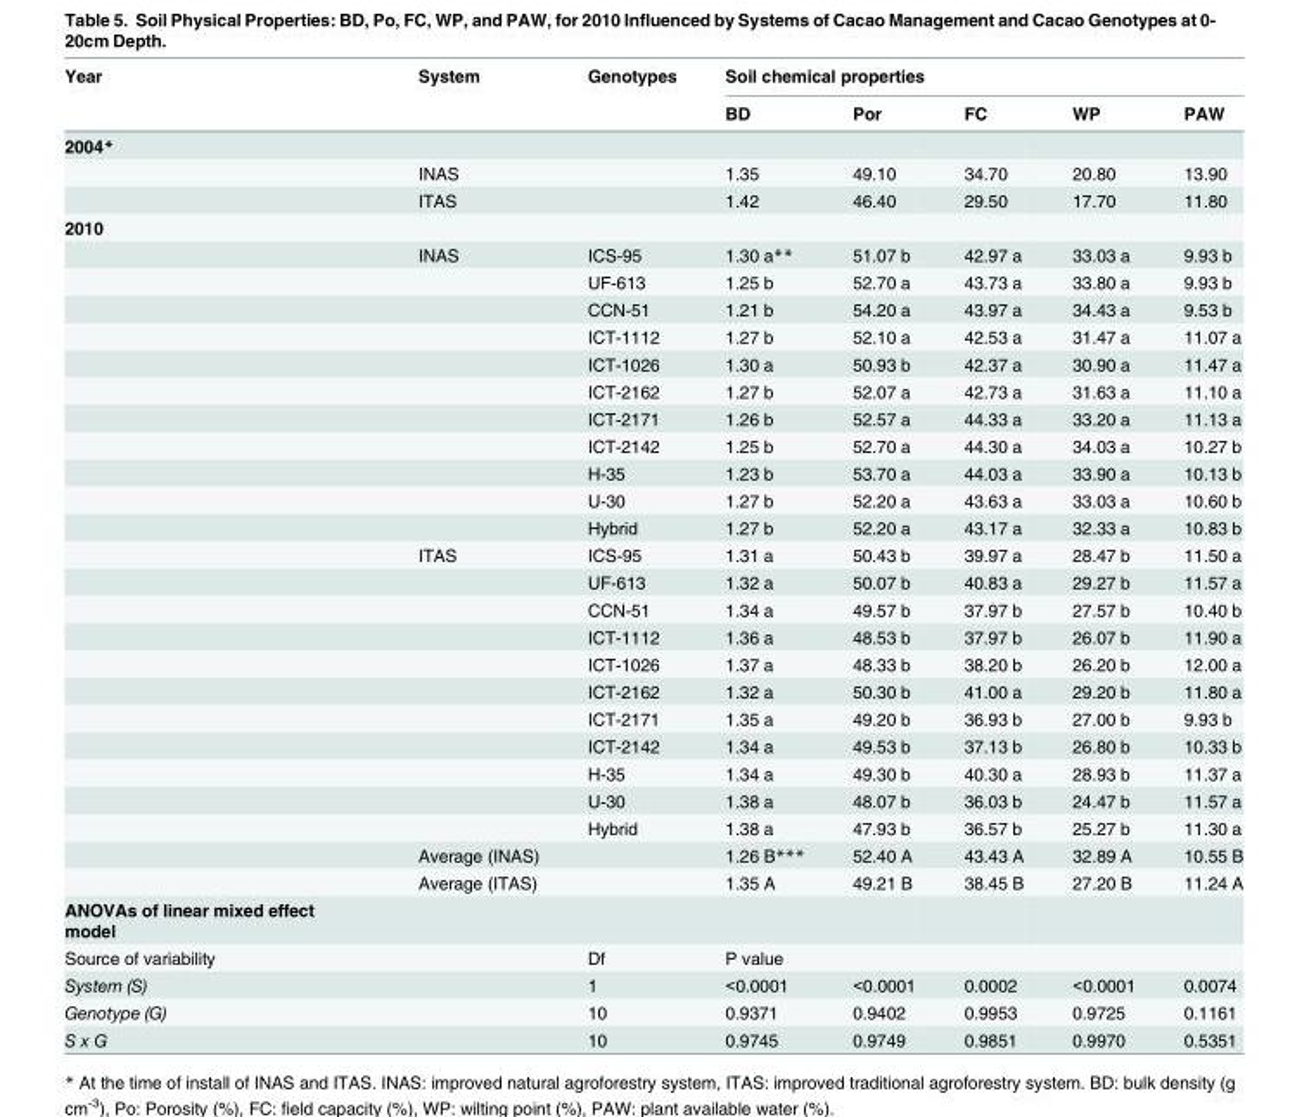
<table><thead><tr><td rowspan="2">Year</td><td rowspan="2">System</td><td rowspan="2">Genotypes</td><td colspan="5">Soil chemical properties</td></tr><tr><td>BD</td><td>Por</td><td>FC</td><td>WP</td><td>PAW</td></tr></thead><tbody><tr><td colspan="8">2004*</td></tr><tr><td></td><td>INAS</td><td></td><td>1.35</td><td>49.10</td><td>34.70</td><td>20.80</td><td>13.90</td></tr><tr><td></td><td>ITAS</td><td></td><td>1.42</td><td>46.40</td><td>29.50</td><td>17.70</td><td>11.80</td></tr><tr><td colspan="8">2010</td></tr><tr><td></td><td>INAS</td><td>ICS-95</td><td>1.30 a**</td><td>51.07 b</td><td>42.97 a</td><td>33.03 a</td><td>9.93 b</td></tr><tr><td></td><td></td><td>UF-613</td><td>1.25 b</td><td>52.70 a</td><td>43.73 a</td><td>33.80 a</td><td>9.93 b</td></tr><tr><td></td><td></td><td>CCN-51</td><td>1.21 b</td><td>54.20 a</td><td>43.97 a</td><td>34.43 a</td><td>9.53 b</td></tr><tr><td></td><td></td><td>ICT-1112</td><td>1.27 b</td><td>52.10 a</td><td>42.53 a</td><td>31.47 a</td><td>11.07 a</td></tr><tr><td></td><td></td><td>ICT-1026</td><td>1.30 a</td><td>50.93 b</td><td>42.37 a</td><td>30.90 a</td><td>11.47 a</td></tr><tr><td></td><td></td><td>ICT-2162</td><td>1.27 b</td><td>52.07 a</td><td>42.73 a</td><td>31.63 a</td><td>11.10 a</td></tr><tr><td></td><td></td><td>ICT-2171</td><td>1.26 b</td><td>52.57 a</td><td>44.33 a</td><td>33.20 a</td><td>11.13 a</td></tr><tr><td></td><td></td><td>ICT-2142</td><td>1.25 b</td><td>52.70 a</td><td>44.30 a</td><td>34.03 a</td><td>10.27 b</td></tr><tr><td></td><td></td><td>H-35</td><td>1.23 b</td><td>53.70 a</td><td>44.03 a</td><td>33.90 a</td><td>10.13 b</td></tr><tr><td></td><td></td><td>U-30</td><td>1.27 b</td><td>52.20 a</td><td>43.63 a</td><td>33.03 a</td><td>10.60 b</td></tr><tr><td></td><td></td><td>Hybrid</td><td>1.27 b</td><td>52.20 a</td><td>43.17 a</td><td>32.33 a</td><td>10.83 b</td></tr><tr><td></td><td>ITAS</td><td>ICS-95</td><td>1.31 a</td><td>50.43 b</td><td>39.97 a</td><td>28.47 b</td><td>11.50 a</td></tr><tr><td></td><td></td><td>UF-613</td><td>1.32 a</td><td>50.07 b</td><td>40.83 a</td><td>29.27 b</td><td>11.57 a</td></tr><tr><td></td><td></td><td>CCN-51</td><td>1.34 a</td><td>49.57 b</td><td>37.97 b</td><td>27.57 b</td><td>10.40 b</td></tr><tr><td></td><td></td><td>ICT-1112</td><td>1.36 a</td><td>48.53 b</td><td>37.97 b</td><td>26.07 b</td><td>11.90 a</td></tr><tr><td></td><td></td><td>ICT-1026</td><td>1.37 a</td><td>48.33 b</td><td>38.20 b</td><td>26.20 b</td><td>12.00 a</td></tr><tr><td></td><td></td><td>ICT-2162</td><td>1.32 a</td><td>50.30 b</td><td>41.00 a</td><td>29.20 b</td><td>11.80 a</td></tr><tr><td></td><td></td><td>ICT-2171</td><td>1.35 a</td><td>49.20 b</td><td>36.93 b</td><td>27.00 b</td><td>9.93 b</td></tr><tr><td></td><td></td><td>ICT-2142</td><td>1.34 a</td><td>49.53 b</td><td>37.13 b</td><td>26.80 b</td><td>10.33 b</td></tr><tr><td></td><td></td><td>H-35</td><td>1.34 a</td><td>49.30 b</td><td>40.30 a</td><td>28.93 b</td><td>11.37 a</td></tr><tr><td></td><td></td><td>U-30</td><td>1.38 a</td><td>48.07 b</td><td>36.03 b</td><td>24.47 b</td><td>11.57 a</td></tr><tr><td></td><td></td><td>Hybrid</td><td>1.38 a</td><td>47.93 b</td><td>36.57 b</td><td>25.27 b</td><td>11.30 a</td></tr><tr><td></td><td>Average (INAS)</td><td></td><td>1.26 B***</td><td>52.40 A</td><td>43.43 A</td><td>32.89 A</td><td>10.55 B</td></tr><tr><td></td><td>Average (ITAS)</td><td></td><td>1.35 A</td><td>49.21 B</td><td>38.45 B</td><td>27.20 B</td><td>11.24 A</td></tr><tr><td colspan="8">ANOVAs of linear mixed effect model</td></tr><tr><td>Source of variability</td><td></td><td>Df</td><td>P value</td><td></td><td></td><td></td><td></td></tr><tr><td>System (S)</td><td></td><td>1</td><td>&lt;0.0001</td><td>&lt;0.0001</td><td>0.0002</td><td>&lt;0.0001</td><td>0.0074</td></tr><tr><td>Genotype (G)</td><td></td><td>10</td><td>0.9371</td><td>0.9402</td><td>0.9953</td><td>0.9725</td><td>0.1161</td></tr><tr><td>S x G</td><td></td><td>10</td><td>0.9745</td><td>0.9749</td><td>0.9851</td><td>0.9970</td><td>0.5351</td></tr></tbody></table>